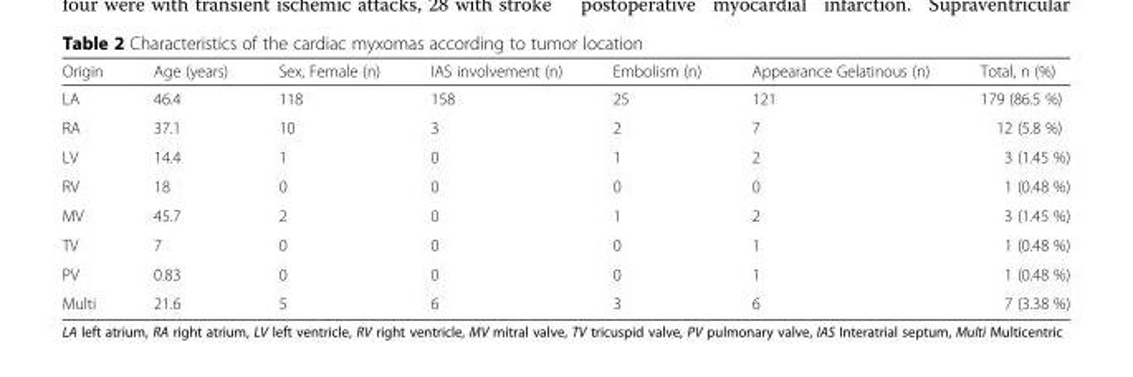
<table><thead><tr><td>Origin</td><td>Age (years)</td><td>Sex, Female (n)</td><td>IAS involvement (n)</td><td>Embolism (n)</td><td>Appearance Gelatinous (n)</td><td>Total, n (%)</td></tr></thead><tbody><tr><td>LA</td><td>46.4</td><td>118</td><td>158</td><td>25</td><td>121</td><td>179 (86.5 %)</td></tr><tr><td>RA</td><td>37.1</td><td>10</td><td>3</td><td>2</td><td>7</td><td>12 (5.8 %)</td></tr><tr><td>LV</td><td>14.4</td><td>1</td><td>0</td><td>1</td><td>2</td><td>3 (1.45 %)</td></tr><tr><td>RV</td><td>18</td><td>0</td><td>0</td><td>0</td><td>0</td><td>1 (0.48 %)</td></tr><tr><td>MV</td><td>45.7</td><td>2</td><td>0</td><td>1</td><td>2</td><td>3 (1.45 %)</td></tr><tr><td>TV</td><td>7</td><td>0</td><td>0</td><td>0</td><td>1</td><td>1 (0.48 %)</td></tr><tr><td>PV</td><td>0.83</td><td>0</td><td>0</td><td>0</td><td>1</td><td>1 (0.48 %)</td></tr><tr><td>Multi</td><td>21.6</td><td>5</td><td>6</td><td>3</td><td>6</td><td>7 (3.38 %)</td></tr></tbody></table>